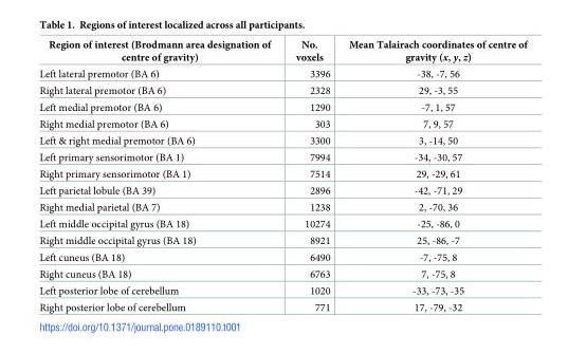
<table><thead><tr><td>Region of interest (Brodmann area designation of centre of gravity)</td><td>No. voxels</td><td>Mean Talairach coordinates of centre of gravity (x, y, z)</td></tr></thead><tbody><tr><td>Left lateral premotor (BA 6)</td><td>3396</td><td>-38, -7, 56</td></tr><tr><td>Right lateral premotor (BA 6)</td><td>2328</td><td>29, -3, 55</td></tr><tr><td>Left medial premotor (BA 6)</td><td>1290</td><td>-7, 1, 57</td></tr><tr><td>Right medial premotor (BA 6)</td><td>303</td><td>7, 9, 57</td></tr><tr><td>Left &amp; right medial premotor (BA 6)</td><td>3300</td><td>3, -14, 50</td></tr><tr><td>Left primary sensorimotor (BA 1)</td><td>7994</td><td>-34, -30, 57</td></tr><tr><td>Right primary sensorimotor (BA 1)</td><td>7514</td><td>29, -29, 61</td></tr><tr><td>Left parietal lobule (BA 39)</td><td>2896</td><td>-42, -71, 29</td></tr><tr><td>Right medial parietal (BA 7)</td><td>1238</td><td>2, -70, 36</td></tr><tr><td>Left middle occipital gyrus (BA 18)</td><td>10274</td><td>-25, -86, 0</td></tr><tr><td>Right middle occipital gyrus (BA 18)</td><td>8921</td><td>25, -86, -7</td></tr><tr><td>Left cuneus (BA 18)</td><td>6490</td><td>-7, -75, 8</td></tr><tr><td>Right cuneus (BA 18)</td><td>6763</td><td>7, -75, 8</td></tr><tr><td>Left posterior lobe of cerebellum</td><td>1020</td><td>-33, -73, -35</td></tr><tr><td>Right posterior lobe of cerebellum</td><td>771</td><td>17, -79, -32</td></tr></tbody></table>